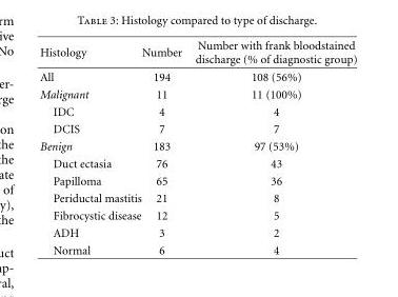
<table><thead><tr><td>Histology</td><td>Number</td><td>Number with frank bloodstained discharge (% of diagnostic group)</td></tr></thead><tbody><tr><td>All</td><td>194</td><td>108 (56%)</td></tr><tr><td>Malignant</td><td>11</td><td>11 (100%)</td></tr><tr><td>IDC</td><td>4</td><td>4</td></tr><tr><td>DCIS</td><td>7</td><td>7</td></tr><tr><td>Benign</td><td>183</td><td>97 (53%)</td></tr><tr><td>Duct ectasia</td><td>76</td><td>43</td></tr><tr><td>Papilloma</td><td>65</td><td>36</td></tr><tr><td>Periductal mastitis</td><td>21</td><td>8</td></tr><tr><td>Fibrocystic disease</td><td>12</td><td>5</td></tr><tr><td>ADH</td><td>3</td><td>2</td></tr><tr><td>Normal</td><td>6</td><td>4</td></tr></tbody></table>